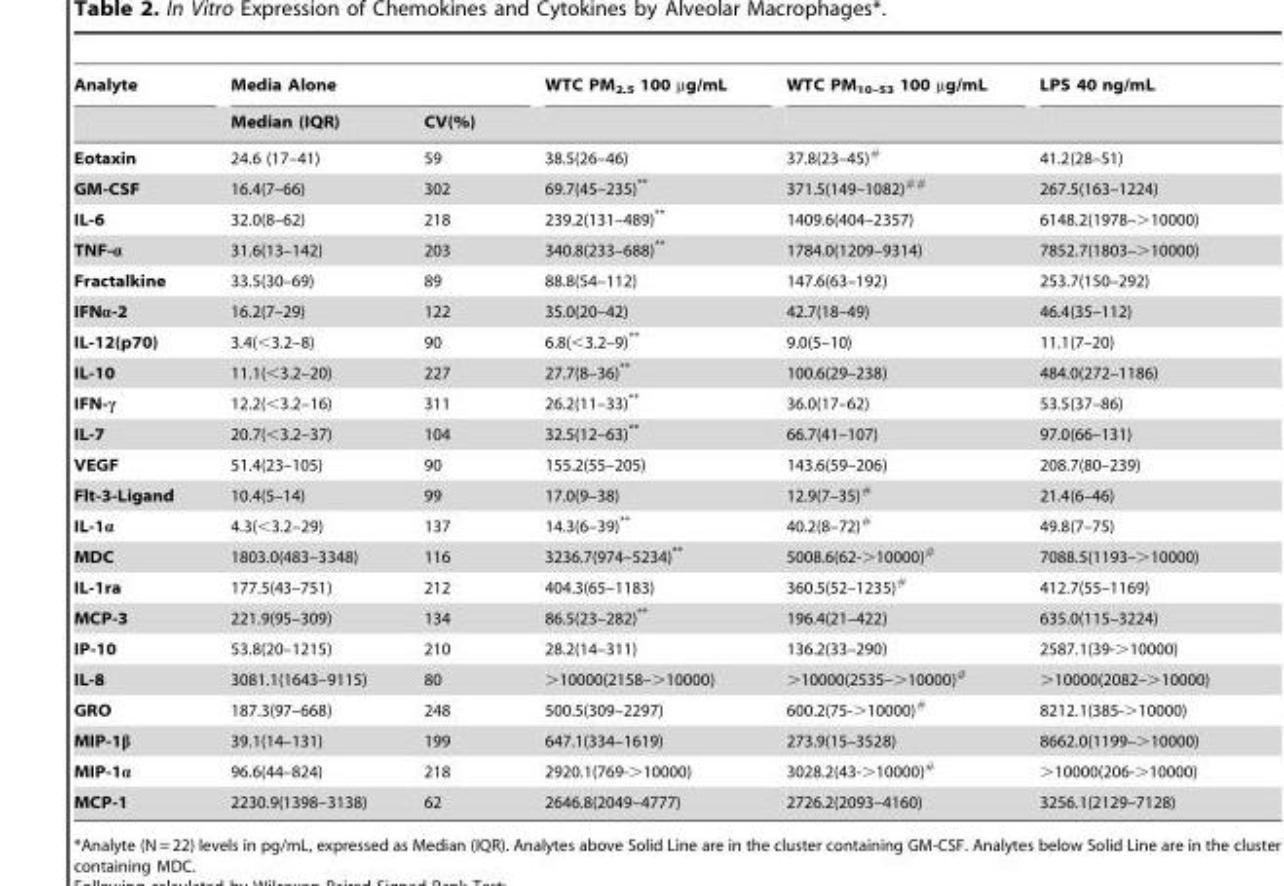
<table><thead><tr><td rowspan="2">Analyte</td><td colspan="2">Media Alone</td><td rowspan="2">WTC PM<sub>2.5</sub> 100 µg/mL</td><td rowspan="2">WTC PM<sub>10–53</sub> 100 µg/mL</td><td rowspan="2">LPS 40 ng/mL</td></tr><tr><td>Median (IQR)</td><td>CV(%)</td></tr></thead><tbody><tr><td>Eotaxin</td><td>24.6 (17–41)</td><td>59</td><td>38.5(26–46)</td><td>37.8(23–45)#</td><td>41.2(28–51)</td></tr><tr><td>GM-CSF</td><td>16.4(7–66)</td><td>302</td><td>69.7(45–235)**</td><td>371.5(149–1082)<sup>##</sup></td><td>267.5(163–1224)</td></tr><tr><td>IL-6</td><td>32.0(8–62)</td><td>218</td><td>239.2(131–489)**</td><td>1409.6(404–2357)</td><td>6148.2(1978–&gt;10000)</td></tr><tr><td>TNF-α</td><td>31.6(13–142)</td><td>203</td><td>340.8(233–688)**</td><td>1784.0(1209–9314)</td><td>7852.7(1803–&gt;10000)</td></tr><tr><td>Fractalkine</td><td>33.5(30–69)</td><td>89</td><td>88.8(54–112)</td><td>147.6(63–192)</td><td>253.7(150–292)</td></tr><tr><td>IFNα-2</td><td>16.2(7–29)</td><td>122</td><td>35.0(20–42)</td><td>42.7(18–49)</td><td>46.4(35–112)</td></tr><tr><td>IL-12(p70)</td><td>3.4(&lt;3.2–8)</td><td>90</td><td>6.8(&lt;3.2–9)**</td><td>9.0(5–10)</td><td>11.1(7–20)</td></tr><tr><td>IL-10</td><td>11.1(&lt;3.2–20)</td><td>227</td><td>27.7(8–36)**</td><td>100.6(29–238)</td><td>484.0(272–1186)</td></tr><tr><td>IFN-γ</td><td>12.2(&lt;3.2–16)</td><td>311</td><td>26.2(11–33)**</td><td>36.0(17–62)</td><td>53.5(37–86)</td></tr><tr><td>IL-7</td><td>20.7(&lt;3.2–37)</td><td>104</td><td>32.5(12–63)**</td><td>66.7(41–107)</td><td>97.0(66–131)</td></tr><tr><td>VEGF</td><td>51.4(23–105)</td><td>90</td><td>155.2(55–205)</td><td>143.6(59–206)</td><td>208.7(80–239)</td></tr><tr><td>Flt-3-Ligand</td><td>10.4(5–14)</td><td>99</td><td>17.0(9–38)</td><td>12.9(7–35)#</td><td>21.4(6–46)</td></tr><tr><td>IL-1α</td><td>4.3(&lt;3.2–29)</td><td>137</td><td>14.3(6–39)**</td><td>40.2(8–72)#</td><td>49.8(7–75)</td></tr><tr><td>MDC</td><td>1803.0(483–3348)</td><td>116</td><td>3236.7(974–5234)**</td><td>5008.6(62-&gt;10000)#</td><td>7088.5(1193–&gt;10000)</td></tr><tr><td>IL-1ra</td><td>177.5(43–751)</td><td>212</td><td>404.3(65–1183)</td><td>360.5(52–1235)#</td><td>412.7(55–1169)</td></tr><tr><td>MCP-3</td><td>221.9(95–309)</td><td>134</td><td>86.5(23–282)**</td><td>196.4(21–422)</td><td>635.0(115–3224)</td></tr><tr><td>IP-10</td><td>53.8(20–1215)</td><td>210</td><td>28.2(14–311)</td><td>136.2(33–290)</td><td>2587.1(39-&gt;10000)</td></tr><tr><td>IL-8</td><td>3081.1(1643–9115)</td><td>80</td><td>&gt;10000(2158–&gt;10000)</td><td>&gt;10000(2535–&gt;10000)#</td><td>&gt;10000(2082–&gt;10000)</td></tr><tr><td>GRO</td><td>187.3(97–668)</td><td>248</td><td>500.5(309–2297)</td><td>600.2(75-&gt;10000)#</td><td>8212.1(385-&gt;10000)</td></tr><tr><td>MIP-1β</td><td>39.1(14–131)</td><td>199</td><td>647.1(334–1619)</td><td>273.9(15–3528)</td><td>8662.0(1199–&gt;10000)</td></tr><tr><td>MIP-1α</td><td>96.6(44–824)</td><td>218</td><td>2920.1(769-&gt;10000)</td><td>3028.2(43-&gt;10000)#</td><td>&gt;10000(206-&gt;10000)</td></tr><tr><td>MCP-1</td><td>2230.9(1398–3138)</td><td>62</td><td>2646.8(2049–4777)</td><td>2726.2(2093–4160)</td><td>3256.1(2129–7128)</td></tr></tbody></table>